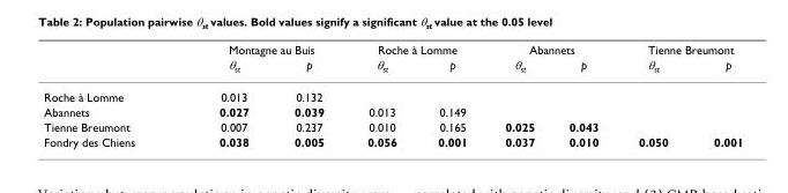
<table><thead><tr><td rowspan="2"></td><td colspan="2">Montagne au Buis</td><td colspan="2">Roche à Lomme</td><td colspan="2">Abannets</td><td colspan="2">Tienne Breumont</td></tr><tr><td>θ<sub>st</sub></td><td>p</td><td>θ<sub>st</sub></td><td>p</td><td>θ<sub>st</sub></td><td>p</td><td>θ<sub>st</sub></td><td>p</td></tr></thead><tbody><tr><td>Roche à Lomme</td><td>0.013</td><td>0.132</td><td></td><td></td><td></td><td></td><td></td><td></td></tr><tr><td>Abannets</td><td>0.027</td><td>0.039</td><td>0.013</td><td>0.149</td><td></td><td></td><td></td><td></td></tr><tr><td>Tienne Breumont</td><td>0.007</td><td>0.237</td><td>0.010</td><td>0.165</td><td>0.025</td><td>0.043</td><td></td><td></td></tr><tr><td>Fondry des Chiens</td><td>0.038</td><td>0.005</td><td>0.056</td><td>0.001</td><td>0.037</td><td>0.010</td><td>0.050</td><td>0.001</td></tr></tbody></table>